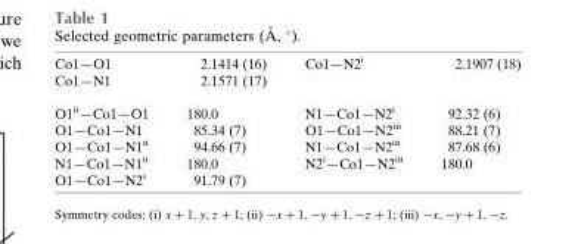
<table><tbody><tr><td>Co1—O1</td><td>2.1414 (16)</td><td>Co1—N2<sup>i</sup></td><td>2.1907 (18)</td></tr><tr><td>Co1—N1</td><td>2.1571 (17)</td><td></td><td></td></tr><tr><td>O1<sup>ii</sup>—Co1—O1</td><td>180.0</td><td>N1—Co1—N2<sup>i</sup></td><td>92.32 (6)</td></tr><tr><td>O1—Co1—N1</td><td>85.34 (7)</td><td>O1—Co1—N2<sup>iii</sup></td><td>88.21 (7)</td></tr><tr><td>O1—Co1—N1<sup>ii</sup></td><td>94.66 (7)</td><td>N1—Co1—N2<sup>iii</sup></td><td>87.68 (6)</td></tr><tr><td>N1—Co1—N1<sup>ii</sup></td><td>180.0</td><td>N2<sup>i</sup>—Co1—N2<sup>iii</sup></td><td>180.0</td></tr><tr><td>O1—Co1—N2<sup>i</sup></td><td>91.79 (7)</td><td></td><td></td></tr></tbody></table>